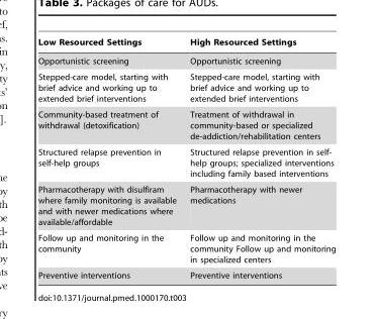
<table><thead><tr><td>Low Resourced Settings</td><td>High Resourced Settings</td></tr></thead><tbody><tr><td>Opportunistic screening</td><td>Opportunistic screening</td></tr><tr><td>Stepped-care model, starting with brief advice and working up to extended brief interventions</td><td>Stepped-care model, starting with brief advice and working up to extended brief interventions</td></tr><tr><td>Community-based treatment of withdrawal (detoxification)</td><td>Treatment of withdrawal in community-based or specialized de-addiction/rehabilitation centers</td></tr><tr><td>Structured relapse prevention in self-help groups</td><td>Structured relapse prevention in self- help groups; specialized interventions including family based interventions</td></tr><tr><td>Pharmacotherapy with disulfiram where family monitoring is available and with newer medications where available/affordable</td><td>Pharmacotherapy with newer medications</td></tr><tr><td>Follow up and monitoring in the community</td><td>Follow up and monitoring in the community Follow up and monitoring in specialized centers</td></tr><tr><td>Preventive interventions</td><td>Preventive interventions</td></tr></tbody></table>